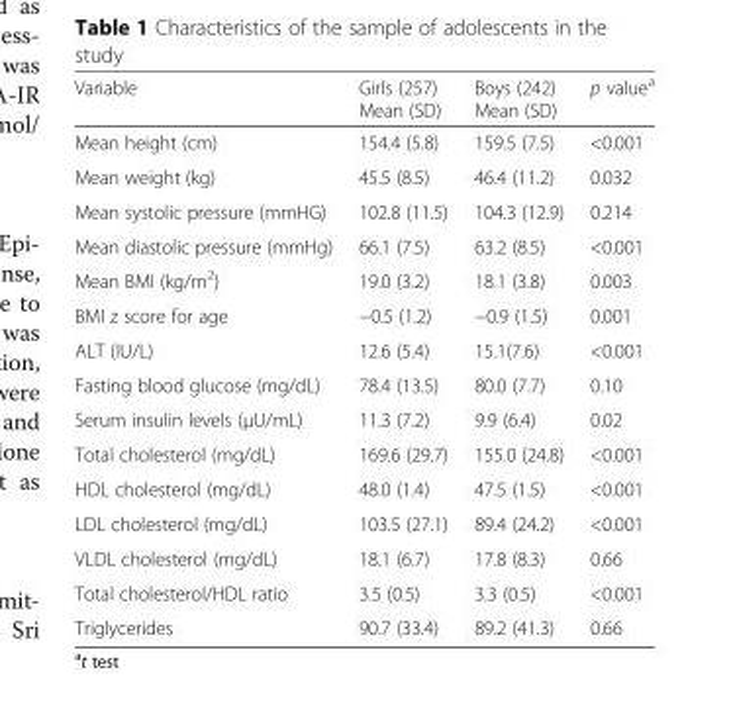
<table><thead><tr><td>Variable</td><td>Girls (257) Mean (SD)</td><td>Boys (242) Mean (SD)</td><td>p value<sup>a</sup></td></tr></thead><tbody><tr><td>Mean height (cm)</td><td>154.4 (5.8)</td><td>159.5 (7.5)</td><td>&lt;0.001</td></tr><tr><td>Mean weight (kg)</td><td>45.5 (8.5)</td><td>46.4 (11.2)</td><td>0.032</td></tr><tr><td>Mean systolic pressure (mmHG)</td><td>102.8 (11.5)</td><td>104.3 (12.9)</td><td>0.214</td></tr><tr><td>Mean diastolic pressure (mmHg)</td><td>66.1 (7.5)</td><td>63.2 (8.5)</td><td>&lt;0.001</td></tr><tr><td>Mean BMI (kg/m<sup>2</sup>)</td><td>19.0 (3.2)</td><td>18.1 (3.8)</td><td>0.003</td></tr><tr><td>BMI z score for age</td><td>−0.5 (1.2)</td><td>−0.9 (1.5)</td><td>0.001</td></tr><tr><td>ALT (IU/L)</td><td>12.6 (5.4)</td><td>15.1(7.6)</td><td>&lt;0.001</td></tr><tr><td>Fasting blood glucose (mg/dL)</td><td>78.4 (13.5)</td><td>80.0 (7.7)</td><td>0.10</td></tr><tr><td>Serum insulin levels (μU/mL)</td><td>11.3 (7.2)</td><td>9.9 (6.4)</td><td>0.02</td></tr><tr><td>Total cholesterol (mg/dL)</td><td>169.6 (29.7)</td><td>155.0 (24.8)</td><td>&lt;0.001</td></tr><tr><td>HDL cholesterol (mg/dL)</td><td>48.0 (1.4)</td><td>47.5 (1.5)</td><td>&lt;0.001</td></tr><tr><td>LDL cholesterol (mg/dL)</td><td>103.5 (27.1)</td><td>89.4 (24.2)</td><td>&lt;0.001</td></tr><tr><td>VLDL cholesterol (mg/dL)</td><td>18.1 (6.7)</td><td>17.8 (8.3)</td><td>0.66</td></tr><tr><td>Total cholesterol/HDL ratio</td><td>3.5 (0.5)</td><td>3.3 (0.5)</td><td>&lt;0.001</td></tr><tr><td>Triglycerides</td><td>90.7 (33.4)</td><td>89.2 (41.3)</td><td>0.66</td></tr></tbody></table>